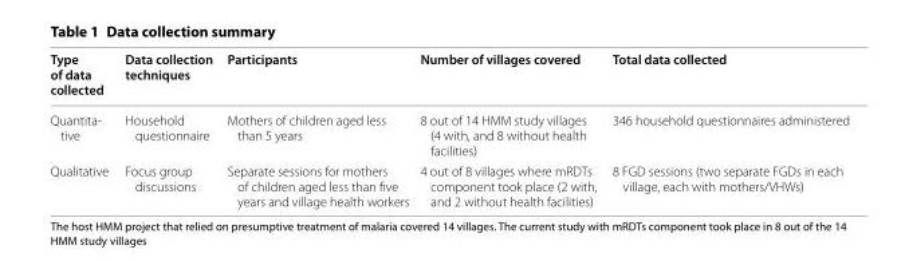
<table><thead><tr><td>Type of data collected</td><td>Data collection techniques</td><td>Participants</td><td>Number of villages covered</td><td>Total data collected</td></tr></thead><tbody><tr><td>Quantita- tive</td><td>Household questionnaire</td><td>Mothers of children aged less than 5 years</td><td>8 out of 14 HMM study villages (4 with, and 8 without health facilities)</td><td>346 household questionnaires administered</td></tr><tr><td>Qualitative</td><td>Focus group discussions</td><td>Separate sessions for mothers of children aged less than five years and village health workers</td><td>4 out of 8 villages where mRDTs component took place (2 with, and 2 without health facilities)</td><td>8 FGD sessions (two separate FGDs in each village, each with mothers/VHWs)</td></tr></tbody></table>